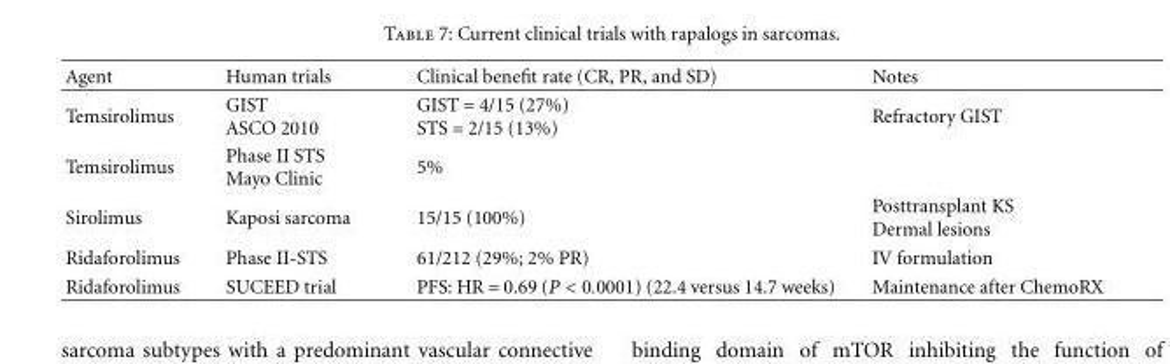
<table><thead><tr><td>Agent</td><td>Human trials</td><td>Clinical benefit rate (CR, PR, and SD)</td><td>Notes</td></tr></thead><tbody><tr><td>Temsirolimus</td><td>GIST ASCO 2010</td><td>GIST = 4/15 (27%) STS = 2/15 (13%)</td><td>Refractory GIST</td></tr><tr><td>Temsirolimus</td><td>Phase II STS Mayo Clinic</td><td>5%</td><td></td></tr><tr><td>Sirolimus</td><td>Kaposi sarcoma</td><td>15/15 (100%)</td><td>Posttransplant KS Dermal lesions</td></tr><tr><td>Ridaforolimus</td><td>Phase II-STS</td><td>61/212 (29%; 2% PR)</td><td>IV formulation</td></tr><tr><td>Ridaforolimus</td><td>SUCEED trial</td><td>PFS: HR = 0.69 (P &lt; 0.0001) (22.4 versus 14.7 weeks)</td><td>Maintenance after ChemoRX</td></tr></tbody></table>